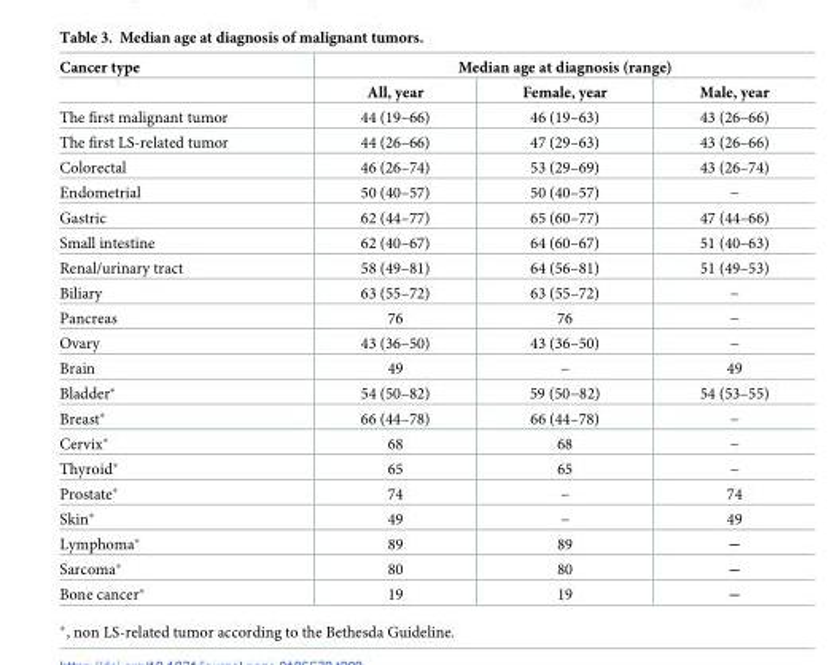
<table><thead><tr><td rowspan="2">Cancer type</td><td colspan="3">Median age at diagnosis (range)</td></tr><tr><td>All, year</td><td>Female, year</td><td>Male, year</td></tr></thead><tbody><tr><td>The first malignant tumor</td><td>44 (19–66)</td><td>46 (19–63)</td><td>43 (26–66)</td></tr><tr><td>The first LS-related tumor</td><td>44 (26–66)</td><td>47 (29–63)</td><td>43 (26–66)</td></tr><tr><td>Colorectal</td><td>46 (26–74)</td><td>53 (29–69)</td><td>43 (26–74)</td></tr><tr><td>Endometrial</td><td>50 (40–57)</td><td>50 (40–57)</td><td>−</td></tr><tr><td>Gastric</td><td>62 (44–77)</td><td>65 (60–77)</td><td>47 (44–66)</td></tr><tr><td>Small intestine</td><td>62 (40–67)</td><td>64 (60–67)</td><td>51 (40–63)</td></tr><tr><td>Renal/urinary tract</td><td>58 (49–81)</td><td>64 (56–81)</td><td>51 (49–53)</td></tr><tr><td>Biliary</td><td>63 (55–72)</td><td>63 (55–72)</td><td>−</td></tr><tr><td>Pancreas</td><td>76</td><td>76</td><td>−</td></tr><tr><td>Ovary</td><td>43 (36–50)</td><td>43 (36–50)</td><td>−</td></tr><tr><td>Brain</td><td>49</td><td>−</td><td>49</td></tr><tr><td>Bladder*</td><td>54 (50–82)</td><td>59 (50−82)</td><td>54 (53–55)</td></tr><tr><td>Breast*</td><td>66 (44–78)</td><td>66 (44–78)</td><td>−</td></tr><tr><td>Cervix*</td><td>68</td><td>68</td><td>−</td></tr><tr><td>Thyroid*</td><td>65</td><td>65</td><td>−</td></tr><tr><td>Prostate*</td><td>74</td><td>−</td><td>74</td></tr><tr><td>Skin*</td><td>49</td><td>−</td><td>49</td></tr><tr><td>Lymphoma*</td><td>89</td><td>89</td><td>―</td></tr><tr><td>Sarcoma*</td><td>80</td><td>80</td><td>―</td></tr><tr><td>Bone cancer*</td><td>19</td><td>19</td><td>―</td></tr></tbody></table>